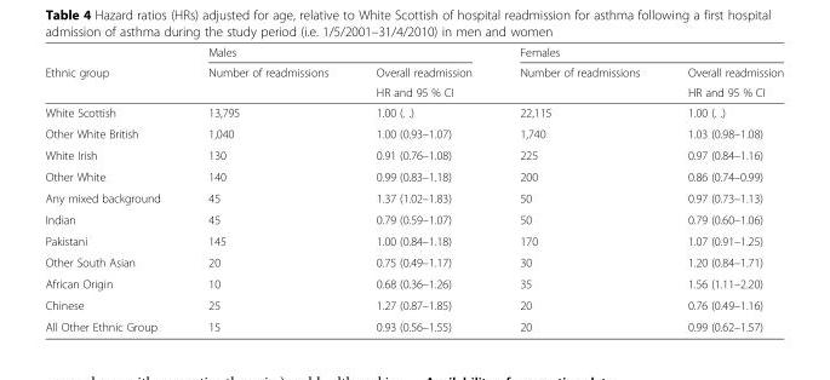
<table><thead><tr><td rowspan="3">Ethnic group</td><td colspan="2">Males</td><td colspan="2">Females</td></tr><tr><td rowspan="2">Number of readmissions</td><td rowspan="2">Overall readmission HR and 95 % CI</td><td rowspan="2">Number of readmissions</td><td rowspan="2">Overall readmission HR and 95 % CI</td></tr><tr></tr></thead><tbody><tr><td>White Scottish</td><td>13,795</td><td>1.00 (. .)</td><td>22,115</td><td>1.00 (. .)</td></tr><tr><td>Other White British</td><td>1,040</td><td>1.00 (0.93–1.07)</td><td>1,740</td><td>1.03 (0.98–1.08)</td></tr><tr><td>White Irish</td><td>130</td><td>0.91 (0.76–1.08)</td><td>225</td><td>0.97 (0.84–1.16)</td></tr><tr><td>Other White</td><td>140</td><td>0.99 (0.83–1.18)</td><td>200</td><td>0.86 (0.74–0.99)</td></tr><tr><td>Any mixed background</td><td>45</td><td>1.37 (1.02–1.83)</td><td>50</td><td>0.97 (0.73–1.13)</td></tr><tr><td>Indian</td><td>45</td><td>0.79 (0.59–1.07)</td><td>50</td><td>0.79 (0.60–1.06)</td></tr><tr><td>Pakistani</td><td>145</td><td>1.00 (0.84–1.18)</td><td>170</td><td>1.07 (0.91–1.25)</td></tr><tr><td>Other South Asian</td><td>20</td><td>0.75 (0.49–1.17)</td><td>30</td><td>1.20 (0.84–1.71)</td></tr><tr><td>African Origin</td><td>10</td><td>0.68 (0.36–1.26)</td><td>35</td><td>1.56 (1.11–2.20)</td></tr><tr><td>Chinese</td><td>25</td><td>1.27 (0.87–1.85)</td><td>20</td><td>0.76 (0.49–1.16)</td></tr><tr><td>All Other Ethnic Group</td><td>15</td><td>0.93 (0.56–1.55)</td><td>20</td><td>0.99 (0.62–1.57)</td></tr></tbody></table>